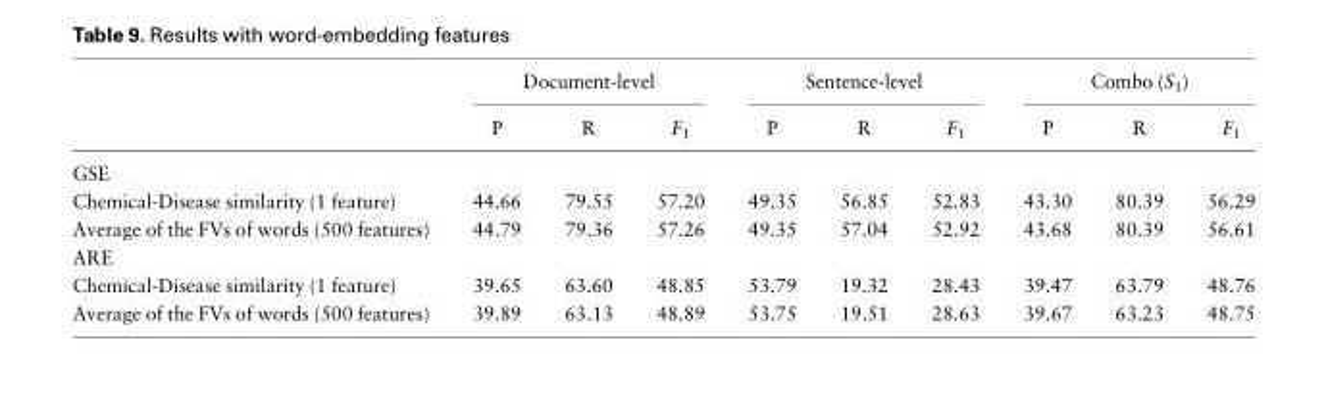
<table><thead><tr><td rowspan="2"></td><td colspan="3">Document-level</td><td colspan="3">Sentence-level</td><td colspan="3">Combo (S<sub>1</sub>)</td></tr><tr><td>P</td><td>R</td><td>F<sub>1</sub></td><td>P</td><td>R</td><td>F<sub>1</sub></td><td>P</td><td>R</td><td>F<sub>1</sub></td></tr></thead><tbody><tr><td colspan="10">GSE</td></tr><tr><td>Chemical-Disease similarity (1 feature)</td><td>44.66</td><td>79.55</td><td>57.20</td><td>49.35</td><td>56.85</td><td>52.83</td><td>43.30</td><td>80.39</td><td>56.29</td></tr><tr><td>Average of the FVs of words (500 features)</td><td>44.79</td><td>79.36</td><td>57.26</td><td>49.35</td><td>57.04</td><td>52.92</td><td>43.68</td><td>80.39</td><td>56.61</td></tr><tr><td colspan="10">ARE</td></tr><tr><td>Chemical-Disease similarity (1 feature)</td><td>39.65</td><td>63.60</td><td>48.85</td><td>53.79</td><td>19.32</td><td>28.43</td><td>39.47</td><td>63.79</td><td>48.76</td></tr><tr><td>Average of the FVs of words (500 features)</td><td>39.89</td><td>63.13</td><td>48.89</td><td>53.75</td><td>19.51</td><td>28.63</td><td>39.67</td><td>63.23</td><td>48.75</td></tr></tbody></table>